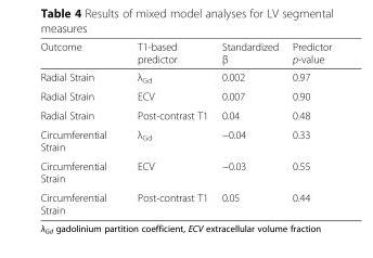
<table><thead><tr><td>Outcome</td><td>T1-based predictor</td><td>Standardized β</td><td>Predictor p-value</td></tr></thead><tbody><tr><td>Radial Strain</td><td>λ<sub>Gd</sub></td><td>0.002</td><td>0.97</td></tr><tr><td>Radial Strain</td><td>ECV</td><td>0.007</td><td>0.90</td></tr><tr><td>Radial Strain</td><td>Post-contrast T1</td><td>0.04</td><td>0.48</td></tr><tr><td>Circumferential Strain</td><td>λ<sub>Gd</sub></td><td>−0.04</td><td>0.33</td></tr><tr><td>Circumferential Strain</td><td>ECV</td><td>−0.03</td><td>0.55</td></tr><tr><td>Circumferential Strain</td><td>Post-contrast T1</td><td>0.05</td><td>0.44</td></tr></tbody></table>